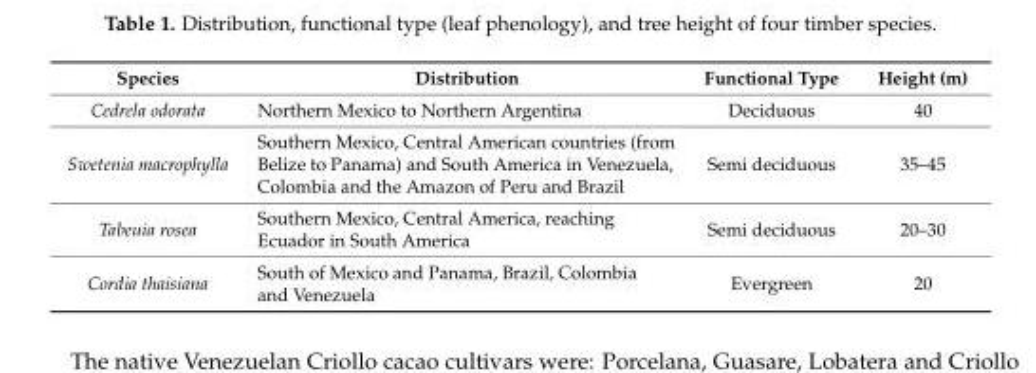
<table><thead><tr><td>Species</td><td>Distribution</td><td>Functional Type</td><td>Height (m)</td></tr></thead><tbody><tr><td>Cedrela odorata</td><td>Northern Mexico to Northern Argentina</td><td>Deciduous</td><td>40</td></tr><tr><td>Swetenia macrophylla</td><td>Southern Mexico, Central American countries (from Belize to Panama) and South America in Venezuela, Colombia and the Amazon of Peru and Brazil</td><td>Semi deciduous</td><td>35–45</td></tr><tr><td>Tabeuia rosea</td><td>Southern Mexico, Central America, reaching Ecuador in South America</td><td>Semi deciduous</td><td>20–30</td></tr><tr><td>Cordia thaisiana</td><td>South of Mexico and Panama, Brazil, Colombia and Venezuela</td><td>Evergreen</td><td>20</td></tr></tbody></table>